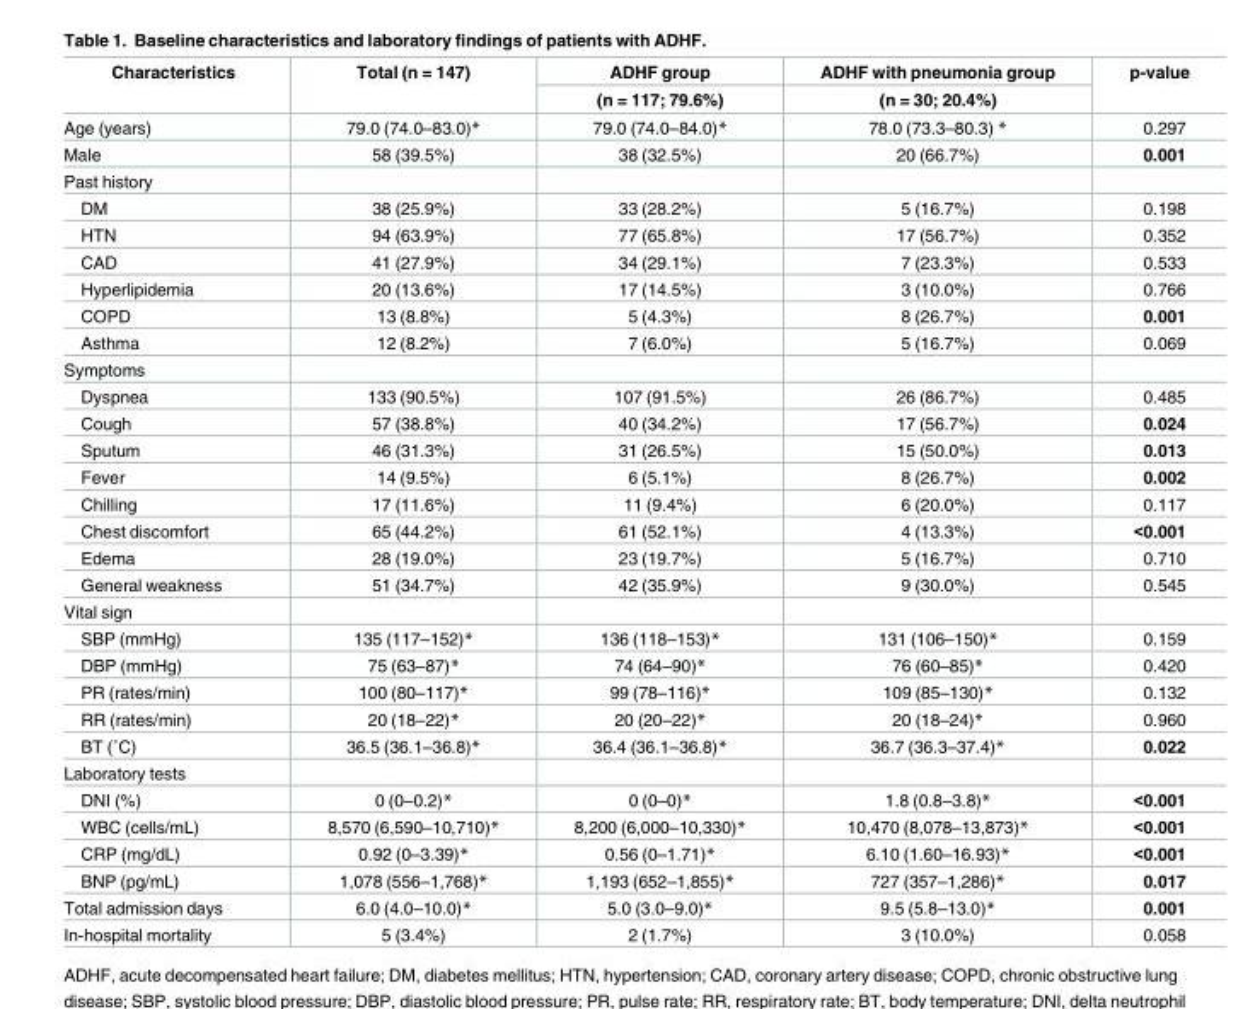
<table><thead><tr><td rowspan="2">Characteristics</td><td rowspan="2">Total (n = 147)</td><td rowspan="2">ADHF group (n = 117; 79.6%)</td><td rowspan="2">ADHF with pneumonia group (n = 30; 20.4%)</td><td rowspan="2">p-value</td></tr><tr></tr></thead><tbody><tr><td>Age (years)</td><td>79.0 (74.0–83.0)*</td><td>79.0 (74.0–84.0)*</td><td>78.0 (73.3–80.3) *</td><td>0.297</td></tr><tr><td>Male</td><td>58 (39.5%)</td><td>38 (32.5%)</td><td>20 (66.7%)</td><td>0.001</td></tr><tr><td colspan="5">Past history</td></tr><tr><td>DM</td><td>38 (25.9%)</td><td>33 (28.2%)</td><td>5 (16.7%)</td><td>0.198</td></tr><tr><td>HTN</td><td>94 (63.9%)</td><td>77 (65.8%)</td><td>17 (56.7%)</td><td>0.352</td></tr><tr><td>CAD</td><td>41 (27.9%)</td><td>34 (29.1%)</td><td>7 (23.3%)</td><td>0.533</td></tr><tr><td>Hyperlipidemia</td><td>20 (13.6%)</td><td>17 (14.5%)</td><td>3 (10.0%)</td><td>0.766</td></tr><tr><td>COPD</td><td>13 (8.8%)</td><td>5 (4.3%)</td><td>8 (26.7%)</td><td>0.001</td></tr><tr><td>Asthma</td><td>12 (8.2%)</td><td>7 (6.0%)</td><td>5 (16.7%)</td><td>0.069</td></tr><tr><td colspan="5">Symptoms</td></tr><tr><td>Dyspnea</td><td>133 (90.5%)</td><td>107 (91.5%)</td><td>26 (86.7%)</td><td>0.485</td></tr><tr><td>Cough</td><td>57 (38.8%)</td><td>40 (34.2%)</td><td>17 (56.7%)</td><td>0.024</td></tr><tr><td>Sputum</td><td>46 (31.3%)</td><td>31 (26.5%)</td><td>15 (50.0%)</td><td>0.013</td></tr><tr><td>Fever</td><td>14 (9.5%)</td><td>6 (5.1%)</td><td>8 (26.7%)</td><td>0.002</td></tr><tr><td>Chilling</td><td>17 (11.6%)</td><td>11 (9.4%)</td><td>6 (20.0%)</td><td>0.117</td></tr><tr><td>Chest discomfort</td><td>65 (44.2%)</td><td>61 (52.1%)</td><td>4 (13.3%)</td><td>&lt;0.001</td></tr><tr><td>Edema</td><td>28 (19.0%)</td><td>23 (19.7%)</td><td>5 (16.7%)</td><td>0.710</td></tr><tr><td>General weakness</td><td>51 (34.7%)</td><td>42 (35.9%)</td><td>9 (30.0%)</td><td>0.545</td></tr><tr><td colspan="5">Vital sign</td></tr><tr><td>SBP (mmHg)</td><td>135 (117–152)*</td><td>136 (118–153)*</td><td>131 (106–150)*</td><td>0.159</td></tr><tr><td>DBP (mmHg)</td><td>75 (63–87)*</td><td>74 (64–90)*</td><td>76 (60–85)*</td><td>0.420</td></tr><tr><td>PR (rates/min)</td><td>100 (80–117)*</td><td>99 (78–116)*</td><td>109 (85–130)*</td><td>0.132</td></tr><tr><td>RR (rates/min)</td><td>20 (18–22)*</td><td>20 (20–22)*</td><td>20 (18–24)*</td><td>0.960</td></tr><tr><td>BT (˚C)</td><td>36.5 (36.1–36.8)*</td><td>36.4 (36.1–36.8)*</td><td>36.7 (36.3–37.4)*</td><td>0.022</td></tr><tr><td colspan="5">Laboratory tests</td></tr><tr><td>DNI (%)</td><td>0 (0–0.2)*</td><td>0 (0–0)*</td><td>1.8 (0.8–3.8)*</td><td>&lt;0.001</td></tr><tr><td>WBC (cells/mL)</td><td>8,570 (6,590–10,710)*</td><td>8,200 (6,000–10,330)*</td><td>10,470 (8,078–13,873)*</td><td>&lt;0.001</td></tr><tr><td>CRP (mg/dL)</td><td>0.92 (0–3.39)*</td><td>0.56 (0–1.71)*</td><td>6.10 (1.60–16.93)*</td><td>&lt;0.001</td></tr><tr><td>BNP (pg/mL)</td><td>1,078 (556–1,768)*</td><td>1,193 (652–1,855)*</td><td>727 (357–1,286)*</td><td>0.017</td></tr><tr><td>Total admission days</td><td>6.0 (4.0–10.0)*</td><td>5.0 (3.0–9.0)*</td><td>9.5 (5.8–13.0)*</td><td>0.001</td></tr><tr><td>In-hospital mortality</td><td>5 (3.4%)</td><td>2 (1.7%)</td><td>3 (10.0%)</td><td>0.058</td></tr></tbody></table>